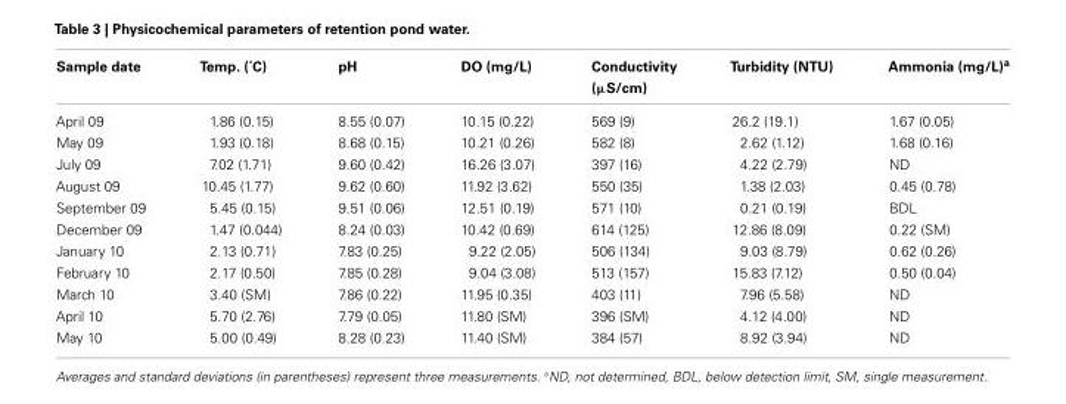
<table><thead><tr><td>Sample date</td><td>Temp. (˚C)</td><td>pH</td><td>DO (mg/L)</td><td>Conductivity (µS/cm)</td><td>Turbidity (NTU)</td><td>Ammonia (mg/L)<sup>a</sup></td></tr></thead><tbody><tr><td>April 09</td><td>1.86 (0.15)</td><td>8.55 (0.07)</td><td>10.15 (0.22)</td><td>569 (9)</td><td>26.2 (19.1)</td><td>1.67 (0.05)</td></tr><tr><td>May 09</td><td>1.93 (0.18)</td><td>8.68 (0.15)</td><td>10.21 (0.26)</td><td>582 (8)</td><td>2.62 (1.12)</td><td>1.68 (0.16)</td></tr><tr><td>July 09</td><td>7.02 (1.71)</td><td>9.60 (0.42)</td><td>16.26 (3.07)</td><td>397 (16)</td><td>4.22 (2.79)</td><td>ND</td></tr><tr><td>August 09</td><td>10.45 (1.77)</td><td>9.62 (0.60)</td><td>11.92 (3.62)</td><td>550 (35)</td><td>1.38 (2.03)</td><td>0.45 (0.78)</td></tr><tr><td>September 09</td><td>5.45 (0.15)</td><td>9.51 (0.06)</td><td>12.51 (0.19)</td><td>571 (10)</td><td>0.21 (0.19)</td><td>BDL</td></tr><tr><td>December 09</td><td>1.47 (0.044)</td><td>8.24 (0.03)</td><td>10.42 (0.69)</td><td>614 (125)</td><td>12.86 (8.09)</td><td>0.22 (SM)</td></tr><tr><td>January 10</td><td>2.13 (0.71)</td><td>7.83 (0.25)</td><td>9.22 (2.05)</td><td>506 (134)</td><td>9.03 (8.79)</td><td>0.62 (0.26)</td></tr><tr><td>February 10</td><td>2.17 (0.50)</td><td>7.85 (0.28)</td><td>9.04 (3.08)</td><td>513 (157)</td><td>15.83 (7.12)</td><td>0.50 (0.04)</td></tr><tr><td>March 10</td><td>3.40 (SM)</td><td>7.86 (0.22)</td><td>11.95 (0.35)</td><td>403 (11)</td><td>7.96 (5.58)</td><td>ND</td></tr><tr><td>April 10</td><td>5.70 (2.76)</td><td>7.79 (0.05)</td><td>11.80 (SM)</td><td>396 (SM)</td><td>4.12 (4.00)</td><td>ND</td></tr><tr><td>May 10</td><td>5.00 (0.49)</td><td>8.28 (0.23)</td><td>11.40 (SM)</td><td>384 (57)</td><td>8.92 (3.94)</td><td>ND</td></tr></tbody></table>